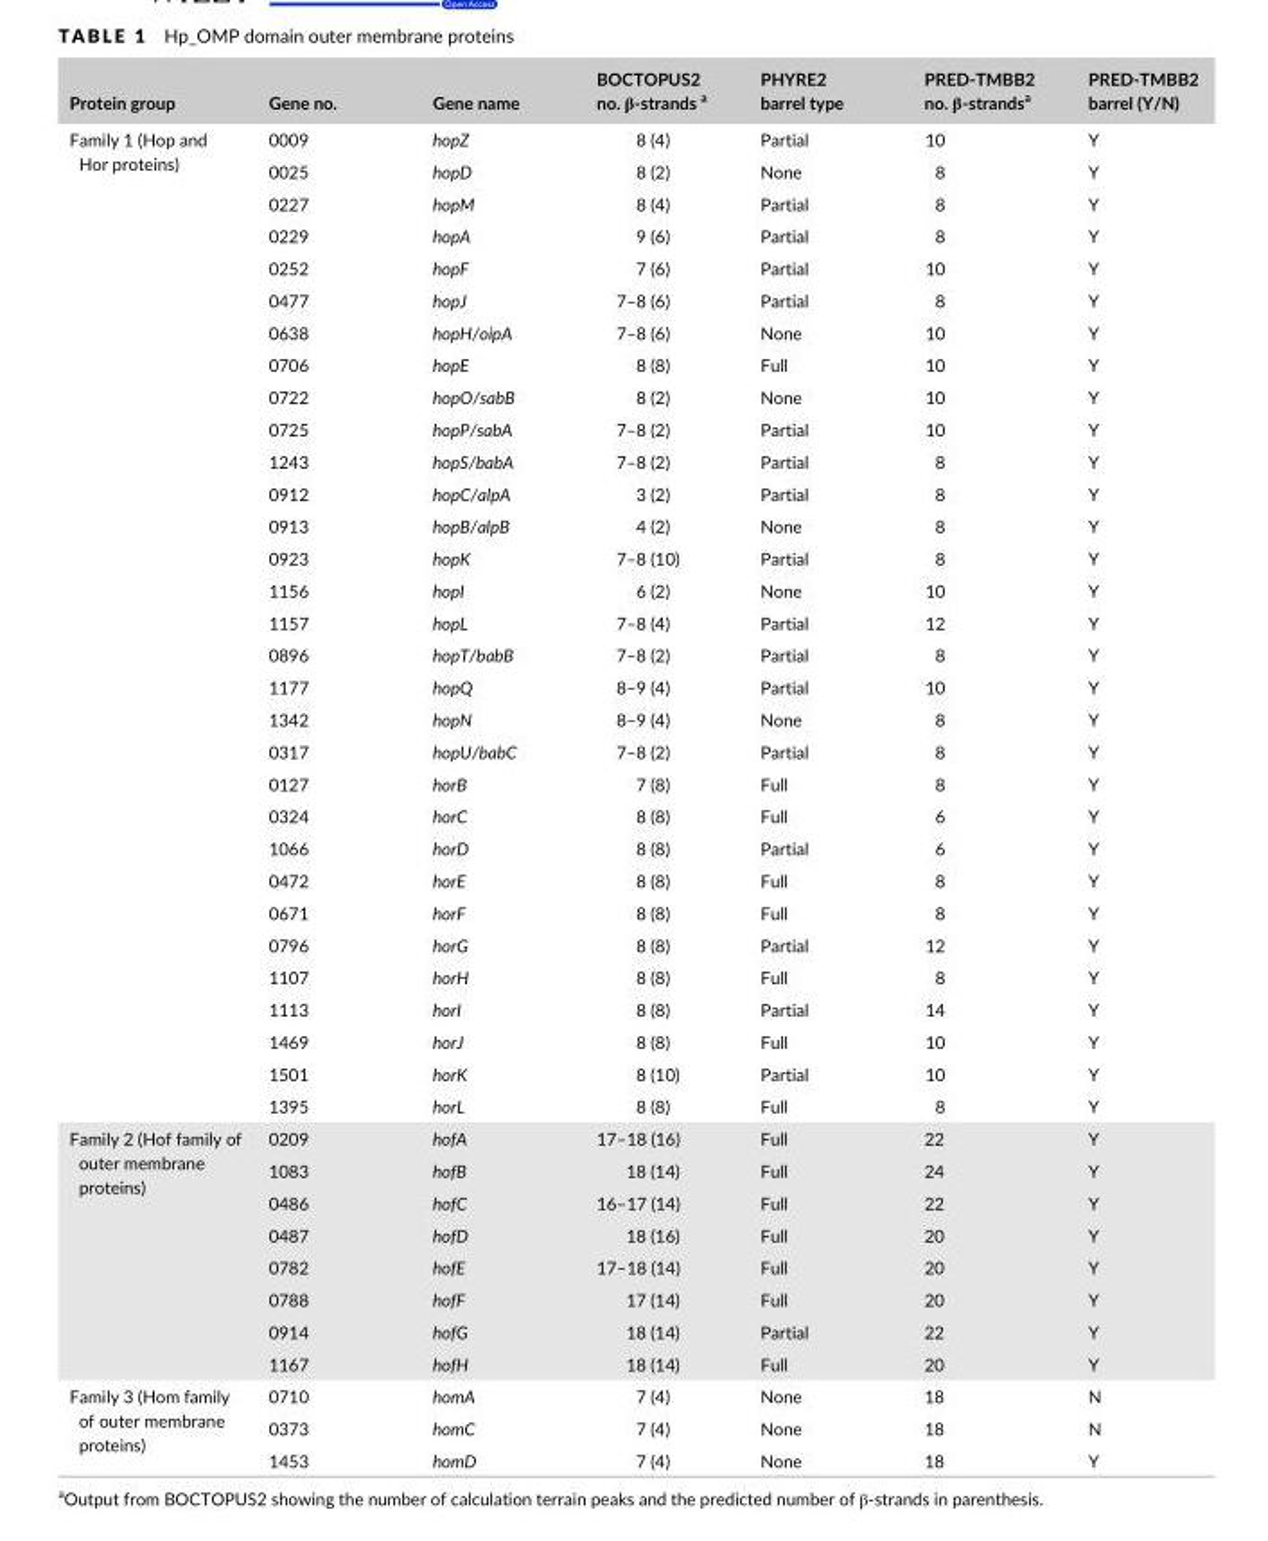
<table><thead><tr><td>Protein group</td><td>Gene no.</td><td>Gene name</td><td>BOCTOPUS2 no. β- strands a</td><td>PHYRE2 barrel type</td><td>PRED- TMBB2 no. β- strands<sup>a</sup></td><td>PRED- TMBB2 barrel (Y/N)</td></tr></thead><tbody><tr><td rowspan="31">Family 1 (Hop and Hor proteins)</td><td>0009</td><td>hopZ</td><td>8 (4)</td><td>Partial</td><td>10</td><td>Y</td></tr><tr><td>0025</td><td>hopD</td><td>8 (2)</td><td>None</td><td>8</td><td>Y</td></tr><tr><td>0227</td><td>hopM</td><td>8 (4)</td><td>Partial</td><td>8</td><td>Y</td></tr><tr><td>0229</td><td>hopA</td><td>9 (6)</td><td>Partial</td><td>8</td><td>Y</td></tr><tr><td>0252</td><td>hopF</td><td>7 (6)</td><td>Partial</td><td>10</td><td>Y</td></tr><tr><td>0477</td><td>hopJ</td><td>7–8 (6)</td><td>Partial</td><td>8</td><td>Y</td></tr><tr><td>0638</td><td>hopH/oipA</td><td>7–8 (6)</td><td>None</td><td>10</td><td>Y</td></tr><tr><td>0706</td><td>hopE</td><td>8 (8)</td><td>Full</td><td>10</td><td>Y</td></tr><tr><td>0722</td><td>hopO/sabB</td><td>8 (2)</td><td>None</td><td>10</td><td>Y</td></tr><tr><td>0725</td><td>hopP/sabA</td><td>7–8 (2)</td><td>Partial</td><td>10</td><td>Y</td></tr><tr><td>1243</td><td>hopS/babA</td><td>7–8 (2)</td><td>Partial</td><td>8</td><td>Y</td></tr><tr><td>0912</td><td>hopC/alpA</td><td>3 (2)</td><td>Partial</td><td>8</td><td>Y</td></tr><tr><td>0913</td><td>hopB/alpB</td><td>4 (2)</td><td>None</td><td>8</td><td>Y</td></tr><tr><td>0923</td><td>hopK</td><td>7–8 (10)</td><td>Partial</td><td>8</td><td>Y</td></tr><tr><td>1156</td><td>hopI</td><td>6 (2)</td><td>None</td><td>10</td><td>Y</td></tr><tr><td>1157</td><td>hopL</td><td>7–8 (4)</td><td>Partial</td><td>12</td><td>Y</td></tr><tr><td>0896</td><td>hopT/babB</td><td>7–8 (2)</td><td>Partial</td><td>8</td><td>Y</td></tr><tr><td>1177</td><td>hopQ</td><td>8–9 (4)</td><td>Partial</td><td>10</td><td>Y</td></tr><tr><td>1342</td><td>hopN</td><td>8–9 (4)</td><td>None</td><td>8</td><td>Y</td></tr><tr><td>0317</td><td>hopU/babC</td><td>7–8 (2)</td><td>Partial</td><td>8</td><td>Y</td></tr><tr><td>0127</td><td>horB</td><td>7 (8)</td><td>Full</td><td>8</td><td>Y</td></tr><tr><td>0324</td><td>horC</td><td>8 (8)</td><td>Full</td><td>6</td><td>Y</td></tr><tr><td>1066</td><td>horD</td><td>8 (8)</td><td>Partial</td><td>6</td><td>Y</td></tr><tr><td>0472</td><td>horE</td><td>8 (8)</td><td>Full</td><td>8</td><td>Y</td></tr><tr><td>0671</td><td>horF</td><td>8 (8)</td><td>Full</td><td>8</td><td>Y</td></tr><tr><td>0796</td><td>horG</td><td>8 (8)</td><td>Partial</td><td>12</td><td>Y</td></tr><tr><td>1107</td><td>horH</td><td>8 (8)</td><td>Full</td><td>8</td><td>Y</td></tr><tr><td>1113</td><td>horI</td><td>8 (8)</td><td>Partial</td><td>14</td><td>Y</td></tr><tr><td>1469</td><td>horJ</td><td>8 (8)</td><td>Full</td><td>10</td><td>Y</td></tr><tr><td>1501</td><td>horK</td><td>8 (10)</td><td>Partial</td><td>10</td><td>Y</td></tr><tr><td>1395</td><td>horL</td><td>8 (8)</td><td>Full</td><td>8</td><td>Y</td></tr><tr><td rowspan="8">Family 2 (Hof family of outer membrane proteins)</td><td>0209</td><td>hofA</td><td>17–18 (16)</td><td>Full</td><td>22</td><td>Y</td></tr><tr><td>1083</td><td>hofB</td><td>18 (14)</td><td>Full</td><td>24</td><td>Y</td></tr><tr><td>0486</td><td>hofC</td><td>16–17 (14)</td><td>Full</td><td>22</td><td>Y</td></tr><tr><td>0487</td><td>hofD</td><td>18 (16)</td><td>Full</td><td>20</td><td>Y</td></tr><tr><td>0782</td><td>hofE</td><td>17–18 (14)</td><td>Full</td><td>20</td><td>Y</td></tr><tr><td>0788</td><td>hofF</td><td>17 (14)</td><td>Full</td><td>20</td><td>Y</td></tr><tr><td>0914</td><td>hofG</td><td>18 (14)</td><td>Partial</td><td>22</td><td>Y</td></tr><tr><td>1167</td><td>hofH</td><td>18 (14)</td><td>Full</td><td>20</td><td>Y</td></tr><tr><td rowspan="3">Family 3 (Hom family of outer membrane proteins)</td><td>0710</td><td>homA</td><td>7 (4)</td><td>None</td><td>18</td><td>N</td></tr><tr><td>0373</td><td>homC</td><td>7 (4)</td><td>None</td><td>18</td><td>N</td></tr><tr><td>1453</td><td>homD</td><td>7 (4)</td><td>None</td><td>18</td><td>Y</td></tr></tbody></table>